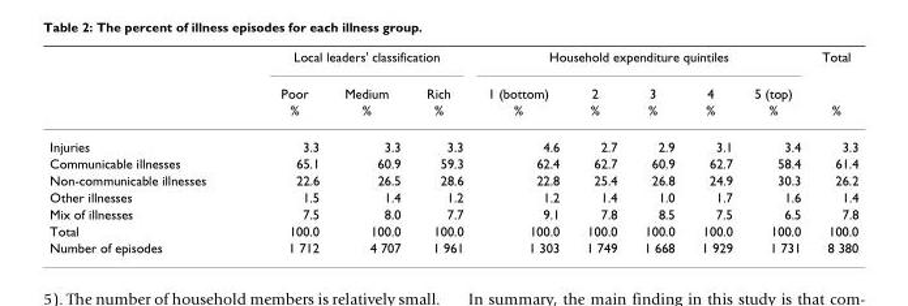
<table><thead><tr><td rowspan="3"></td><td colspan="3">Local leaders&#x27; classification</td><td colspan="5">Household expenditure quintiles</td><td rowspan="3">Total %</td></tr><tr><td rowspan="2">Poor %</td><td rowspan="2">Medium %</td><td rowspan="2">Rich %</td><td rowspan="2">1 (bottom) %</td><td rowspan="2">2 %</td><td rowspan="2">3 %</td><td rowspan="2">4 %</td><td rowspan="2">5 (top) %</td></tr><tr></tr></thead><tbody><tr><td>Injuries</td><td>3.3</td><td>3.3</td><td>3.3</td><td>4.6</td><td>2.7</td><td>2.9</td><td>3.1</td><td>3.4</td><td>3.3</td></tr><tr><td>Communicable illnesses</td><td>65.1</td><td>60.9</td><td>59.3</td><td>62.4</td><td>62.7</td><td>60.9</td><td>62.7</td><td>58.4</td><td>61.4</td></tr><tr><td>Non-communicable illnesses</td><td>22.6</td><td>26.5</td><td>28.6</td><td>22.8</td><td>25.4</td><td>26.8</td><td>24.9</td><td>30.3</td><td>26.2</td></tr><tr><td>Other illnesses</td><td>1.5</td><td>1.4</td><td>1.2</td><td>1.2</td><td>1.4</td><td>1.0</td><td>1.7</td><td>1.6</td><td>1.4</td></tr><tr><td>Mix of illnesses</td><td>7.5</td><td>8.0</td><td>7.7</td><td>9.1</td><td>7.8</td><td>8.5</td><td>7.5</td><td>6.5</td><td>7.8</td></tr><tr><td>Total</td><td>100.0</td><td>100.0</td><td>100.0</td><td>100.0</td><td>100.0</td><td>100.0</td><td>100.0</td><td>100.0</td><td>100.0</td></tr><tr><td>Number of episodes</td><td>1 712</td><td>4 707</td><td>1 961</td><td>1 303</td><td>1 749</td><td>1 668</td><td>1 929</td><td>1 731</td><td>8 380</td></tr></tbody></table>